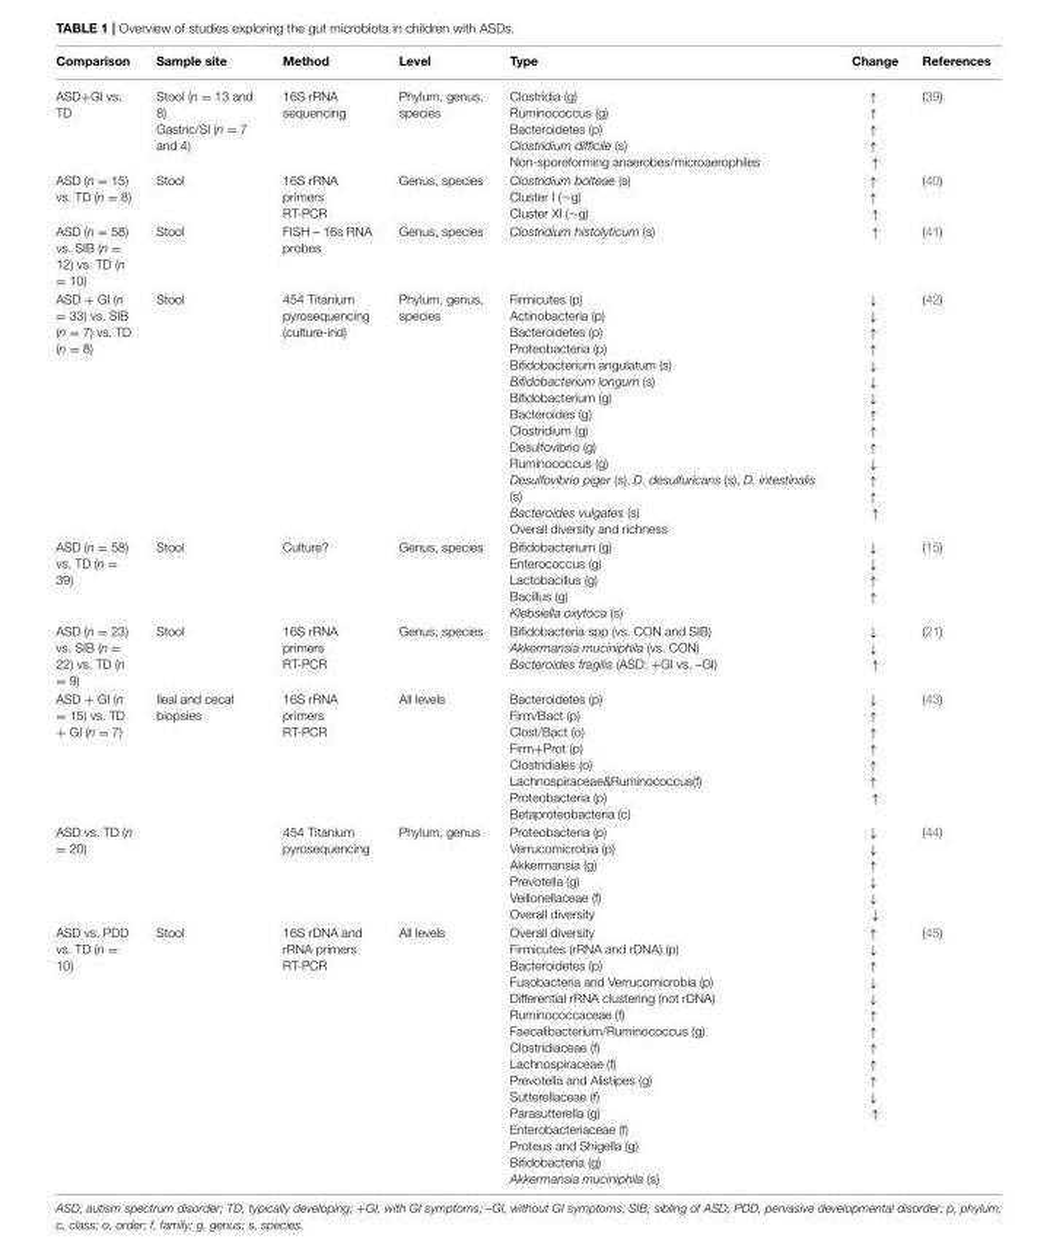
<table><thead><tr><td>Comparison</td><td>Sample site</td><td>Method</td><td>Level</td><td>Type</td><td>Change</td><td>References</td></tr></thead><tbody><tr><td>ASD+GI vs. TD</td><td>Stool (n = 13 and 8) Gastric/SI (n = 7 and 4)</td><td>16S rRNA sequencing</td><td>Phylum, genus, species</td><td>Clostridia (g) Ruminococcus (g) Bacteroidetes (p) Clostridium difficile (s) Non-sporeforming anaerobes/microaerophiles</td><td>↑ ↑ ↑ ↑ ↑</td><td>(39)</td></tr><tr><td>ASD (n = 15) vs. TD (n = 8)</td><td>Stool</td><td>16S rRNA primers RT-PCR</td><td>Genus, species</td><td>Clostridium bolteae (s) Cluster I (∼g) Cluster XI (∼g)</td><td>↑ ↑ ↑</td><td>(40)</td></tr><tr><td>ASD (n = 58) vs. SIB (n = 12) vs. TD (n = 10)</td><td>Stool</td><td>FISH – 16s RNA probes</td><td>Genus, species</td><td>Clostridium histolyticum (s)</td><td>↑</td><td>(41)</td></tr><tr><td>ASD + GI (n = 33) vs. SIB (n = 7) vs. TD (n = 8)</td><td>Stool</td><td>454 Titanium pyrosequencing (culture-ind)</td><td>Phylum, genus, species</td><td>Firmicutes (p) Actinobacteria (p) Bacteroidetes (p) Proteobacteria (p) Bifidobacterium angulatum (s) Bifidobacterium longum (s) Bifidobacterium (g) Bacteroides (g) Clostridium (g) Desulfovibrio (g) Ruminococcus (g) Desulfovibrio piger (s), D. desulfuricans (s), D. intestinalis (s) Bacteroides vulgates (s) Overall diversity and richness</td><td>↓ ↓ ↑ ↑ ↓ ↓ ↓ ↑ ↑ ↑ ↓ ↑ ↑ ↑</td><td>(42)</td></tr><tr><td>ASD (n = 58) vs. TD (n = 39)</td><td>Stool</td><td>Culture?</td><td>Genus, species</td><td>Bifidobacterium (g) Enterococcus (g) Lactobacillus (g) Bacillus (g) Klebsiella oxytoca (s)</td><td>↓ ↓ ↑ ↑</td><td>(15)</td></tr><tr><td>ASD (n = 23) vs. SIB (n = 22) vs. TD (n = 9)</td><td>Stool</td><td>16S rRNA primers RT-PCR</td><td>Genus, species</td><td>Bifidobacteria spp (vs. CON and SIB) Akkermansia muciniphila (vs. CON) Bacteroides fragilis (ASD: +GI vs. –GI)</td><td>↓ ↓ ↑</td><td>(21)</td></tr><tr><td>ASD + GI (n = 15) vs. TD + GI (n = 7)</td><td>Ileal and cecal biopsies</td><td>16S rRNA primers RT-PCR</td><td>All levels</td><td>Bacteroidetes (p) Firm/Bact (p) Clost/Bact (o) Firm+Prot (p) Clostridiales (o) Lachnospiraceae&amp;Ruminococcus(f) Proteobacteria (p) Betaproteobacteria (c)</td><td>↓ ↑ ↑ ↑ ↑ ↑ ↑</td><td>(43)</td></tr><tr><td>ASD vs. TD (n = 20)</td><td></td><td>454 Titanium pyrosequencing</td><td>Phylum, genus</td><td>Proteobacteria (p) Verrucomicrobia (p) Akkermansia (g) Prevotella (g) Veillonellaceae (f) Overall diversity</td><td>↓ ↓ ↑ ↓ ↓ ↓</td><td>(44)</td></tr><tr><td>ASD vs. PDD vs. TD (n = 10)</td><td>Stool</td><td>16S rDNA and rRNA primers RT-PCR</td><td>All levels</td><td>Overall diversity Firmicutes (rRNA and rDNA) (p) Bacteroidetes (p) Fusobacteria and Verrucomicrobia (p) Differential rRNA clustering (not rDNA) Ruminococcaceae (f) Faecalibacterium/Ruminococcus (g) Clostridiaceae (f) Lachnospiraceae (f) Prevotella and Alistipes (g) Sutterellaceae (f) Parasutterella (g) Enterobacteriaceae (f) Proteus and Shigella (g) Bifidobacteria (g) Akkermansia muciniphila (s)</td><td>↑ ↓ ↑ ↓ ↓ ↑ ↑ ↑ ↑ ↑ ↓ ↑</td><td>(45)</td></tr></tbody></table>